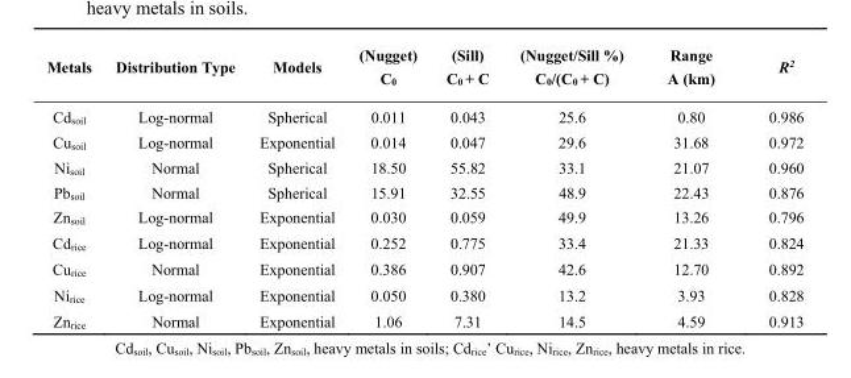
<table><thead><tr><td>Metals</td><td>Distribution Type</td><td>Models</td><td>(Nugget) C<sub>0</sub></td><td>(Sill) C<sub>0</sub> + C</td><td>(Nugget/Sill %) C<sub>0</sub>/(C<sub>0</sub> + C)</td><td>Range A (km)</td><td>R<sup>2</sup></td></tr></thead><tbody><tr><td>Cd<sub>soil</sub></td><td>Log-normal</td><td>Spherical</td><td>0.011</td><td>0.043</td><td>25.6</td><td>0.80</td><td>0.986</td></tr><tr><td>Cu<sub>soil</sub></td><td>Log-normal</td><td>Exponential</td><td>0.014</td><td>0.047</td><td>29.6</td><td>31.68</td><td>0.972</td></tr><tr><td>Ni<sub>soil</sub></td><td>Normal</td><td>Spherical</td><td>18.50</td><td>55.82</td><td>33.1</td><td>21.07</td><td>0.960</td></tr><tr><td>Pb<sub>soil</sub></td><td>Normal</td><td>Spherical</td><td>15.91</td><td>32.55</td><td>48.9</td><td>22.43</td><td>0.876</td></tr><tr><td>Zn<sub>soil</sub></td><td>Log-normal</td><td>Exponential</td><td>0.030</td><td>0.059</td><td>49.9</td><td>13.26</td><td>0.796</td></tr><tr><td>Cd<sub>rice</sub></td><td>Log-normal</td><td>Exponential</td><td>0.252</td><td>0.775</td><td>33.4</td><td>21.33</td><td>0.824</td></tr><tr><td>Cu<sub>rice</sub></td><td>Normal</td><td>Exponential</td><td>0.386</td><td>0.907</td><td>42.6</td><td>12.70</td><td>0.892</td></tr><tr><td>Ni<sub>rice</sub></td><td>Log-normal</td><td>Exponential</td><td>0.050</td><td>0.380</td><td>13.2</td><td>3.93</td><td>0.828</td></tr><tr><td>Zn<sub>rice</sub></td><td>Normal</td><td>Exponential</td><td>1.06</td><td>7.31</td><td>14.5</td><td>4.59</td><td>0.913</td></tr></tbody></table>